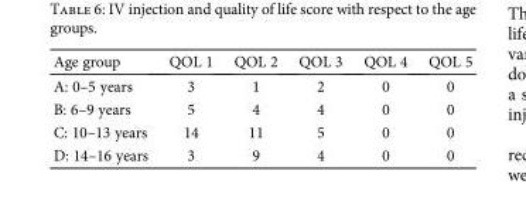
<table><thead><tr><td>Age group</td><td>QOL 1</td><td>QOL 2</td><td>QOL 3</td><td>QOL 4</td><td>QOL 5</td></tr></thead><tbody><tr><td>A: 0–5 years</td><td>3</td><td>1</td><td>2</td><td>0</td><td>0</td></tr><tr><td>B: 6–9 years</td><td>5</td><td>4</td><td>4</td><td>0</td><td>0</td></tr><tr><td>C: 10–13 years</td><td>14</td><td>11</td><td>5</td><td>0</td><td>0</td></tr><tr><td>D: 14–16 years</td><td>3</td><td>9</td><td>4</td><td>0</td><td>0</td></tr></tbody></table>